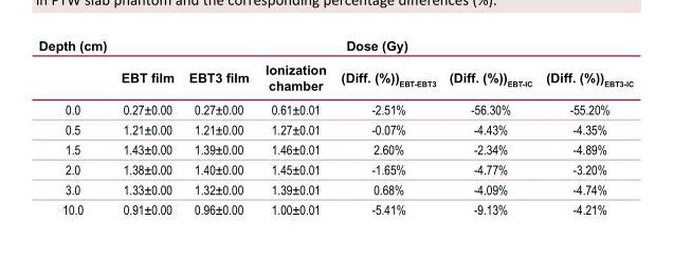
<table><thead><tr><td rowspan="2">Depth (cm)</td><td colspan="6">Dose (Gy)</td></tr><tr><td>EBT film</td><td>EBT3 film</td><td>Ionization chamber</td><td>(Diff. (%))<sub>EBT-EBT3</sub></td><td>(Diff. (%))<sub>EBT-IC</sub></td><td>(Diff. (%))<sub>EBT3-IC</sub></td></tr></thead><tbody><tr><td>0.0</td><td>0.27±0.00</td><td>0.27±0.00</td><td>0.61±0.01</td><td>-2.51%</td><td>-56.30%</td><td>-55.20%</td></tr><tr><td>0.5</td><td>1.21±0.00</td><td>1.21±0.00</td><td>1.27±0.01</td><td>-0.07%</td><td>-4.43%</td><td>-4.35%</td></tr><tr><td>1.5</td><td>1.43±0.00</td><td>1.39±0.00</td><td>1.46±0.01</td><td>2.60%</td><td>-2.34%</td><td>-4.89%</td></tr><tr><td>2.0</td><td>1.38±0.00</td><td>1.40±0.00</td><td>1.45±0.01</td><td>-1.65%</td><td>-4.77%</td><td>-3.20%</td></tr><tr><td>3.0</td><td>1.33±0.00</td><td>1.32±0.00</td><td>1.39±0.01</td><td>0.68%</td><td>-4.09%</td><td>-4.74%</td></tr><tr><td>10.0</td><td>0.91±0.00</td><td>0.96±0.00</td><td>1.00±0.01</td><td>-5.41%</td><td>-9.13%</td><td>-4.21%</td></tr></tbody></table>